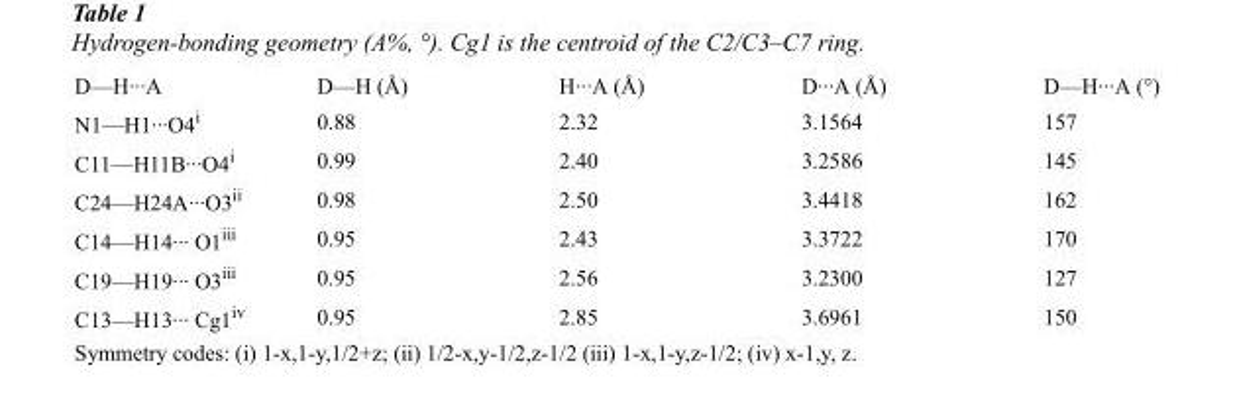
<table><tbody><tr><td>D—H···A</td><td>D—H (Å)</td><td>H···A (Å)</td><td>D···A (Å)</td><td>D—H···A (°)</td></tr><tr><td>N1—H1···O4<sup>i</sup></td><td>0.88</td><td>2.32</td><td>3.1564</td><td>157</td></tr><tr><td>C11—H11B···O4<sup>i</sup></td><td>0.99</td><td>2.40</td><td>3.2586</td><td>145</td></tr><tr><td>C24—H24A···O3<sup>ii</sup></td><td>0.98</td><td>2.50</td><td>3.4418</td><td>162</td></tr><tr><td>C14—H14··· O1<sup>iii</sup></td><td>0.95</td><td>2.43</td><td>3.3722</td><td>170</td></tr><tr><td>C19—H19··· O3<sup>iii</sup></td><td>0.95</td><td>2.56</td><td>3.2300</td><td>127</td></tr><tr><td>C13—H13··· Cg1<sup>iv</sup></td><td>0.95</td><td>2.85</td><td>3.6961</td><td>150</td></tr></tbody></table>